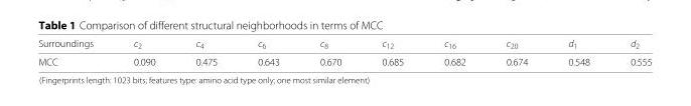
<table><thead><tr><td>Surroundings</td><td>c<sub>2</sub></td><td>c<sub>4</sub></td><td>c<sub>6</sub></td><td>c<sub>8</sub></td><td>c<sub>12</sub></td><td>c<sub>16</sub></td><td>c<sub>20</sub></td><td>d<sub>1</sub></td><td>d<sub>2</sub></td></tr></thead><tbody><tr><td>MCC</td><td>0.090</td><td>0.475</td><td>0.643</td><td>0.670</td><td>0.685</td><td>0.682</td><td>0.674</td><td>0.548</td><td>0.555</td></tr></tbody></table>